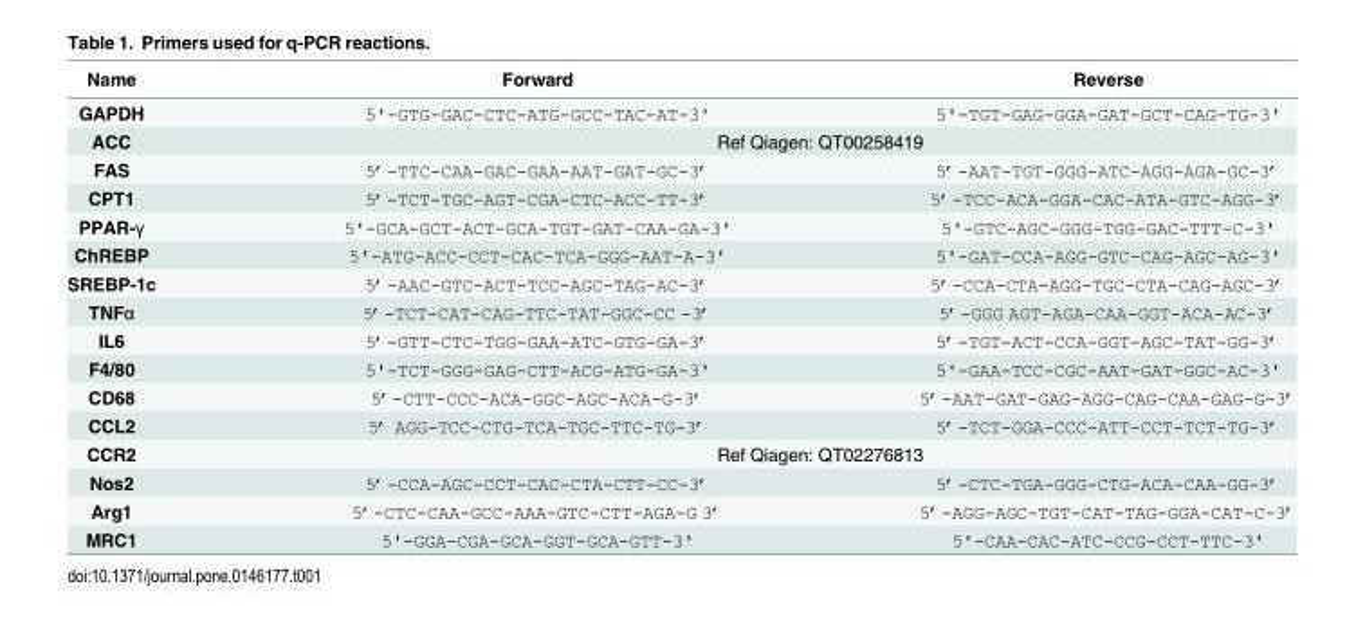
<table><thead><tr><td>Name</td><td>Forward</td><td>Reverse</td></tr></thead><tbody><tr><td>GAPDH</td><td>5&#x27;-GTG-GAC-CTC-ATG-GCC-TAC-AT-3&#x27;</td><td>5&#x27;-TGT-GAG-GGA-GAT-GCT-CAG-TG-3&#x27;</td></tr><tr><td>ACC</td><td colspan="2">Ref Qiagen: QT00258419</td></tr><tr><td>FAS</td><td>5’-TTC-CAA-GAC-GAA-AAT-GAT-GC-3’</td><td>5’-AAT-TGT-GGG-ATC-AGG-AGA-GC-3’</td></tr><tr><td>CPT1</td><td>5’-TCT-TGC-AGT-CGA-CTC-ACC-TT-3’</td><td>5’-TCC-ACA-GGA-CAC-ATA-GTC-AGG-3’</td></tr><tr><td>PPAR-γ</td><td>5&#x27;-GCA-GCT-ACT-GCA-TGT-GAT-CAA-GA-3&#x27;</td><td>5&#x27;-GTC-AGC-GGG-TGG-GAC-TTT-C-3&#x27;</td></tr><tr><td>ChREBP</td><td>5&#x27;-ATG-ACC-CCT-CAC-TCA-GGG-AAT-A-3&#x27;</td><td>5&#x27;-GAT-CCA-AGG-GTC-CAG-AGC-AG-3&#x27;</td></tr><tr><td>SREBP-1c</td><td>5’-AAC-GTC-ACT-TCC-AGC-TAG-AC-3’</td><td>5’-CCA-CTA-AGG-TGC-CTA-CAG-AGC-3’</td></tr><tr><td>TNFα</td><td>5’-TCT-CAT-CAG-TTC-TAT-GGC-CC -3’</td><td>5’-GGG AGT-AGA-CAA-GGT-ACA-AC-3’</td></tr><tr><td>IL6</td><td>5’-GTT-CTC-TGG-GAA-ATC-GTG-GA-3’</td><td>5’-TGT-ACT-CCA-GGT-AGC-TAT-GG-3’</td></tr><tr><td>F4/80</td><td>5&#x27;-TCT-GGG-GAG-CTT-ACG-ATG-GA-3&#x27;</td><td>5&#x27;-GAA-TCC-CGC-AAT-GAT-GGC-AC-3&#x27;</td></tr><tr><td>CD68</td><td>5’-CTT-CCC-ACA-GGC-AGC-ACA-G-3’</td><td>5’-AAT-GAT-GAG-AGG-CAG-CAA-GAG-G-3’</td></tr><tr><td>CCL2</td><td>5’ AGG-TCC-CTG-TCA-TGC-TTC-TG-3’</td><td>5’-TCT-GGA-CCC-ATT-CCT-TCT-TG-3’</td></tr><tr><td>CCR2</td><td colspan="2">Ref Qiagen: QT02276813</td></tr><tr><td>Nos2</td><td>5’-CCA-AGC-CCT-CAC-CTA-CTT-CC-3’</td><td>5’-CTC-TGA-GGG-CTG-ACA-CAA-GG-3’</td></tr><tr><td>Arg1</td><td>5’-CTC-CAA-GCC-AAA-GTC-CTT-AGA-G 3’</td><td>5’-AGG-AGC-TGT-CAT-TAG-GGA-CAT-C-3’</td></tr><tr><td>MRC1</td><td>5&#x27;-GGA-CGA-GCA-GGT-GCA-GTT-3&#x27;</td><td>5&#x27;-CAA-CAC-ATC-CCG-CCT-TTC-3&#x27;</td></tr></tbody></table>